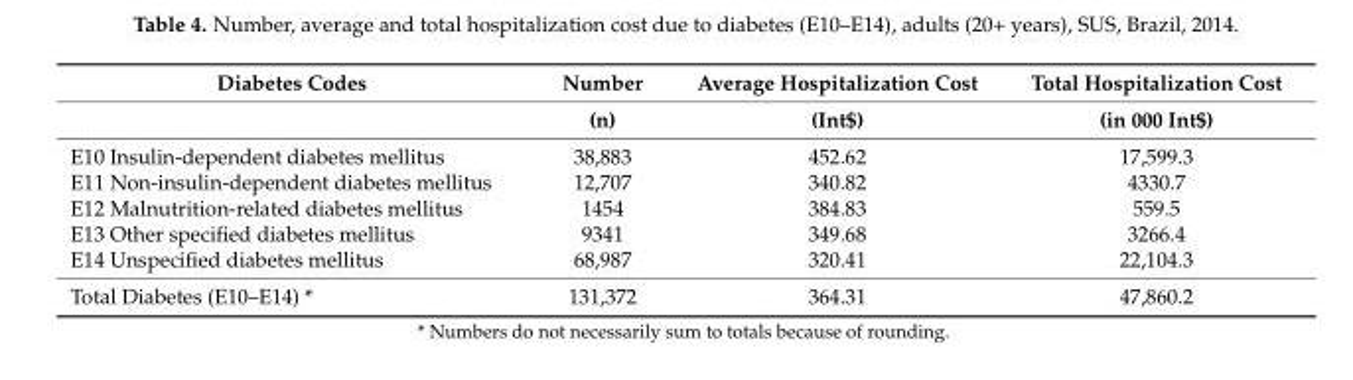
<table><thead><tr><td rowspan="2">Diabetes Codes</td><td rowspan="2">Number (n)</td><td rowspan="2">Average Hospitalization Cost (Int$)</td><td rowspan="2">Total Hospitalization Cost (in 000 Int$)</td></tr><tr></tr></thead><tbody><tr><td>E10 Insulin-dependent diabetes mellitus</td><td>38,883</td><td>452.62</td><td>17,599.3</td></tr><tr><td>E11 Non-insulin-dependent diabetes mellitus</td><td>12,707</td><td>340.82</td><td>4330.7</td></tr><tr><td>E12 Malnutrition-related diabetes mellitus</td><td>1454</td><td>384.83</td><td>559.5</td></tr><tr><td>E13 Other specified diabetes mellitus</td><td>9341</td><td>349.68</td><td>3266.4</td></tr><tr><td>E14 Unspecified diabetes mellitus</td><td>68,987</td><td>320.41</td><td>22,104.3</td></tr><tr><td>Total Diabetes (E10–E14) *</td><td>131,372</td><td>364.31</td><td>47,860.2</td></tr></tbody></table>